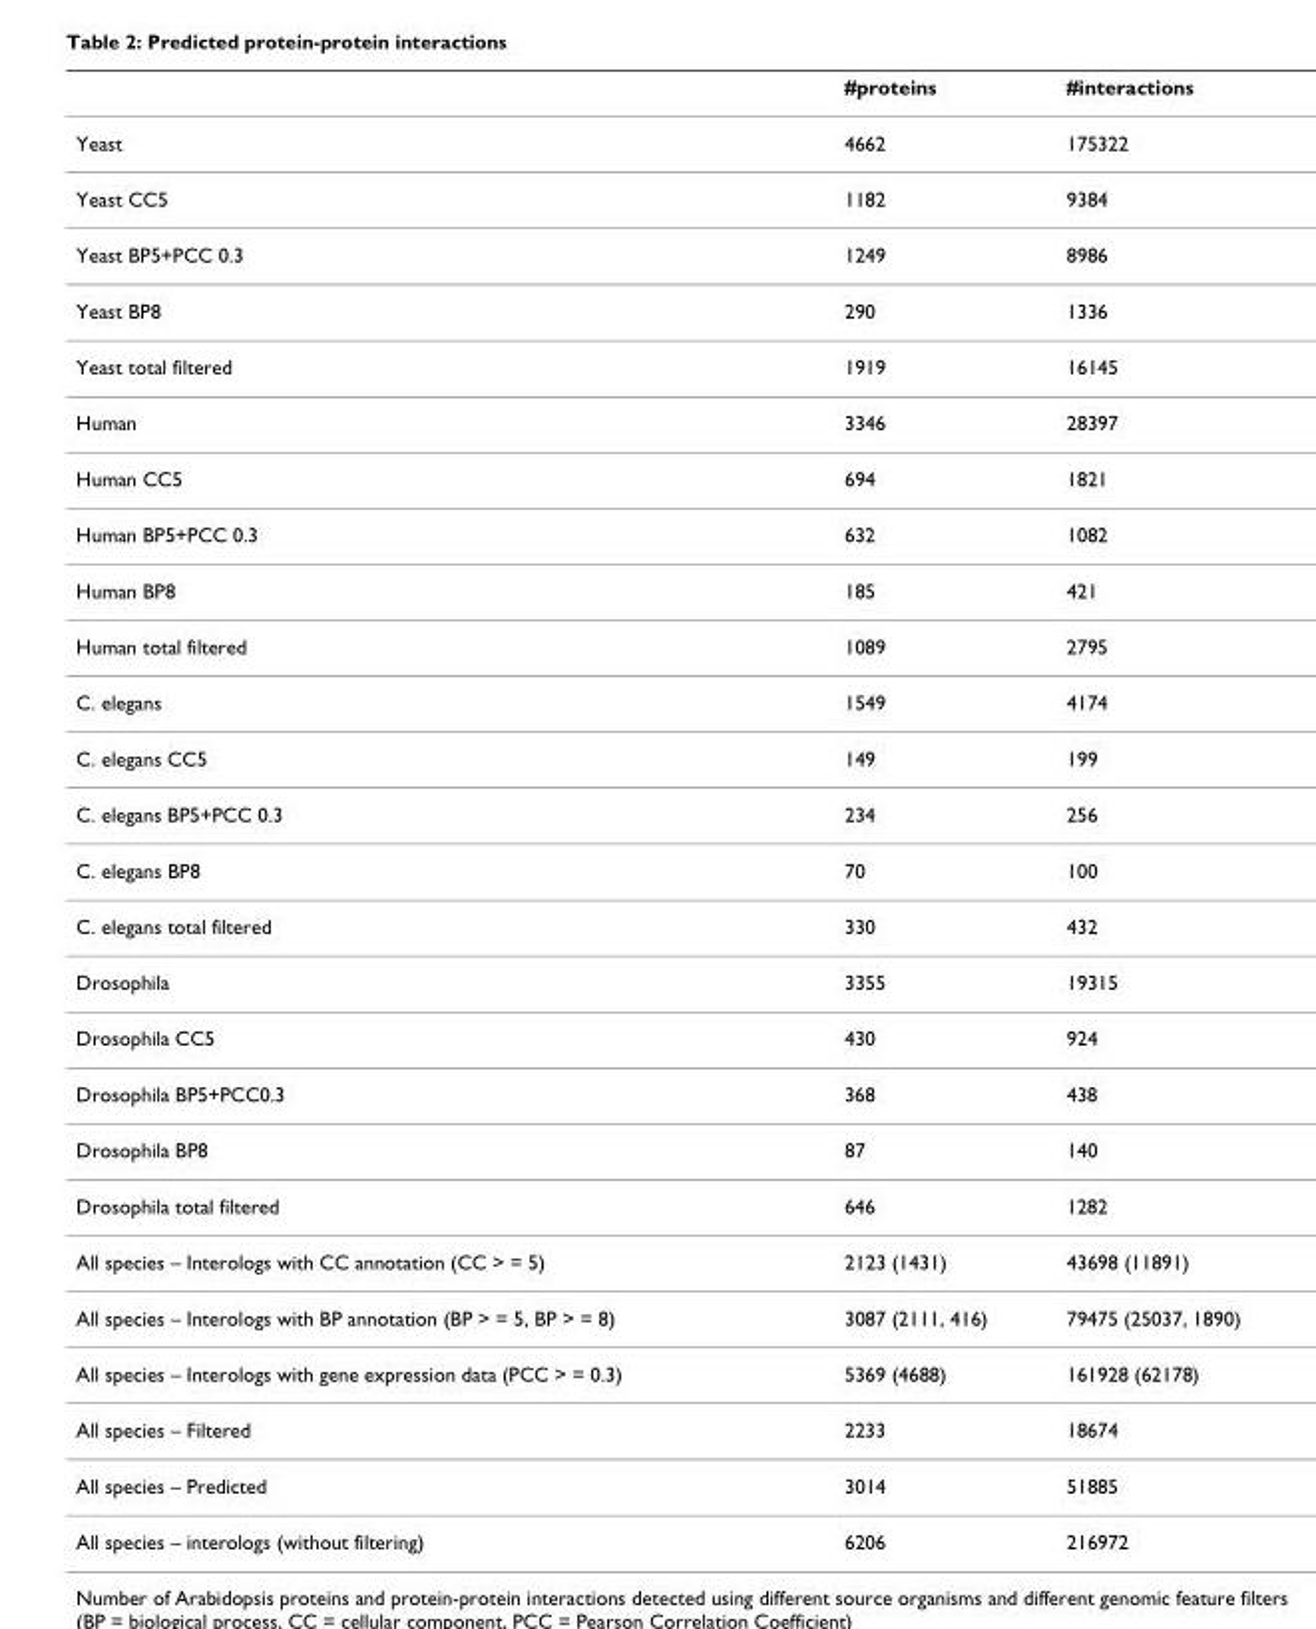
<table><thead><tr><td></td><td>#proteins</td><td>#interactions</td></tr></thead><tbody><tr><td>Yeast</td><td>4662</td><td>175322</td></tr><tr><td>Yeast CC5</td><td>1182</td><td>9384</td></tr><tr><td>Yeast BP5+PCC 0.3</td><td>1249</td><td>8986</td></tr><tr><td>Yeast BP8</td><td>290</td><td>1336</td></tr><tr><td>Yeast total filtered</td><td>1919</td><td>16145</td></tr><tr><td>Human</td><td>3346</td><td>28397</td></tr><tr><td>Human CC5</td><td>694</td><td>1821</td></tr><tr><td>Human BP5+PCC 0.3</td><td>632</td><td>1082</td></tr><tr><td>Human BP8</td><td>185</td><td>421</td></tr><tr><td>Human total filtered</td><td>1089</td><td>2795</td></tr><tr><td>C. elegans</td><td>1549</td><td>4174</td></tr><tr><td>C. elegans CC5</td><td>149</td><td>199</td></tr><tr><td>C. elegans BP5+PCC 0.3</td><td>234</td><td>256</td></tr><tr><td>C. elegans BP8</td><td>70</td><td>100</td></tr><tr><td>C. elegans total filtered</td><td>330</td><td>432</td></tr><tr><td>Drosophila</td><td>3355</td><td>19315</td></tr><tr><td>Drosophila CC5</td><td>430</td><td>924</td></tr><tr><td>Drosophila BP5+PCC0.3</td><td>368</td><td>438</td></tr><tr><td>Drosophila BP8</td><td>87</td><td>140</td></tr><tr><td>Drosophila total filtered</td><td>646</td><td>1282</td></tr><tr><td>All species – Interologs with CC annotation (CC &gt; = 5)</td><td>2123 (1431)</td><td>43698 (11891)</td></tr><tr><td>All species – Interologs with BP annotation (BP &gt; = 5, BP &gt; = 8)</td><td>3087 (2111, 416)</td><td>79475 (25037, 1890)</td></tr><tr><td>All species – Interologs with gene expression data (PCC &gt; = 0.3)</td><td>5369 (4688)</td><td>161928 (62178)</td></tr><tr><td>All species – Filtered</td><td>2233</td><td>18674</td></tr><tr><td>All species – Predicted</td><td>3014</td><td>51885</td></tr><tr><td>All species – interologs (without filtering)</td><td>6206</td><td>216972</td></tr></tbody></table>